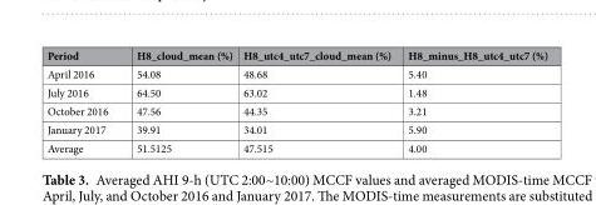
<table><thead><tr><td>Period</td><td>H8_cloud_mean (%)</td><td>H8_utc4_utc7_cloud_mean (%)</td><td>H8_minus_H8_utc4_utc7 (%)</td></tr></thead><tbody><tr><td>April 2016</td><td>54.08</td><td>48.68</td><td>5.40</td></tr><tr><td>July 2016</td><td>64.50</td><td>63.02</td><td>1.48</td></tr><tr><td>October 2016</td><td>47.56</td><td>44.35</td><td>3.21</td></tr><tr><td>January 2017</td><td>39.91</td><td>34.01</td><td>5.90</td></tr><tr><td>Average</td><td>51.5125</td><td>47.515</td><td>4.00</td></tr></tbody></table>